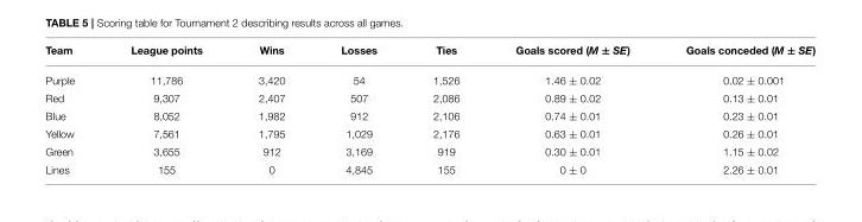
<table><thead><tr><td>Team</td><td>League points</td><td>Wins</td><td>Losses</td><td>Ties</td><td>Goals scored (M ± SE)</td><td>Goals conceded (M ± SE)</td></tr></thead><tbody><tr><td>Purple</td><td>11,786</td><td>3,420</td><td>54</td><td>1,526</td><td>1.46 ± 0.02</td><td>0.02 ± 0.001</td></tr><tr><td>Red</td><td>9,307</td><td>2,407</td><td>507</td><td>2,086</td><td>0.89 ± 0.02</td><td>0.13 ± 0.01</td></tr><tr><td>Blue</td><td>8,052</td><td>1,982</td><td>912</td><td>2,106</td><td>0.74 ± 0.01</td><td>0.23 ± 0.01</td></tr><tr><td>Yellow</td><td>7,561</td><td>1,795</td><td>1,029</td><td>2,176</td><td>0.63 ± 0.01</td><td>0.26 ± 0.01</td></tr><tr><td>Green</td><td>3,655</td><td>912</td><td>3,169</td><td>919</td><td>0.30 ± 0.01</td><td>1.15 ± 0.02</td></tr><tr><td>Lines</td><td>155</td><td>0</td><td>4,845</td><td>155</td><td>0 ± 0</td><td>2.26 ± 0.01</td></tr></tbody></table>